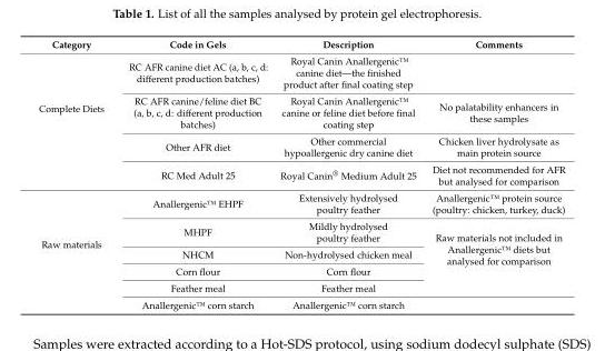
<table><thead><tr><td>Category</td><td>Code in Gels</td><td>Description</td><td>Comments</td></tr></thead><tbody><tr><td rowspan="4">Complete Diets</td><td>RC AFR canine diet AC (a, b, c, d: different production batches)</td><td>Royal Canin Anallergenic™ canine diet—the finished product after final coating step</td><td></td></tr><tr><td>RC AFR canine/feline diet BC (a, b, c, d: different production batches)</td><td>Royal Canin Anallergenic™ canine or feline diet before final coating step</td><td>No palatability enhancers in these samples</td></tr><tr><td>Other AFR diet</td><td>Other commercial hypoallergenic dry canine diet</td><td>Chicken liver hydrolysate as main protein source</td></tr><tr><td>RC Med Adult 25</td><td>Royal Canin<sup>®</sup> Medium Adult 25</td><td>Diet not recommended for AFR but analysed for comparison</td></tr><tr><td rowspan="6">Raw materials</td><td>Anallergenic™ EHPF</td><td>Extensively hydrolysed poultry feather</td><td>Anallergenic™ protein source (poultry: chicken, turkey, duck)</td></tr><tr><td>MHPF</td><td>Mildly hydrolysed poultry feather</td><td rowspan="4">Raw materials not included in Anallergenic™ diets but analysed for comparison</td></tr><tr><td>NHCM</td><td>Non-hydrolysed chicken meal</td></tr><tr><td>Corn flour</td><td>Corn flour</td></tr><tr><td>Feather meal</td><td>Feather meal</td></tr><tr><td>Anallergenic™ corn starch</td><td>Anallergenic™ corn starch</td><td></td></tr></tbody></table>